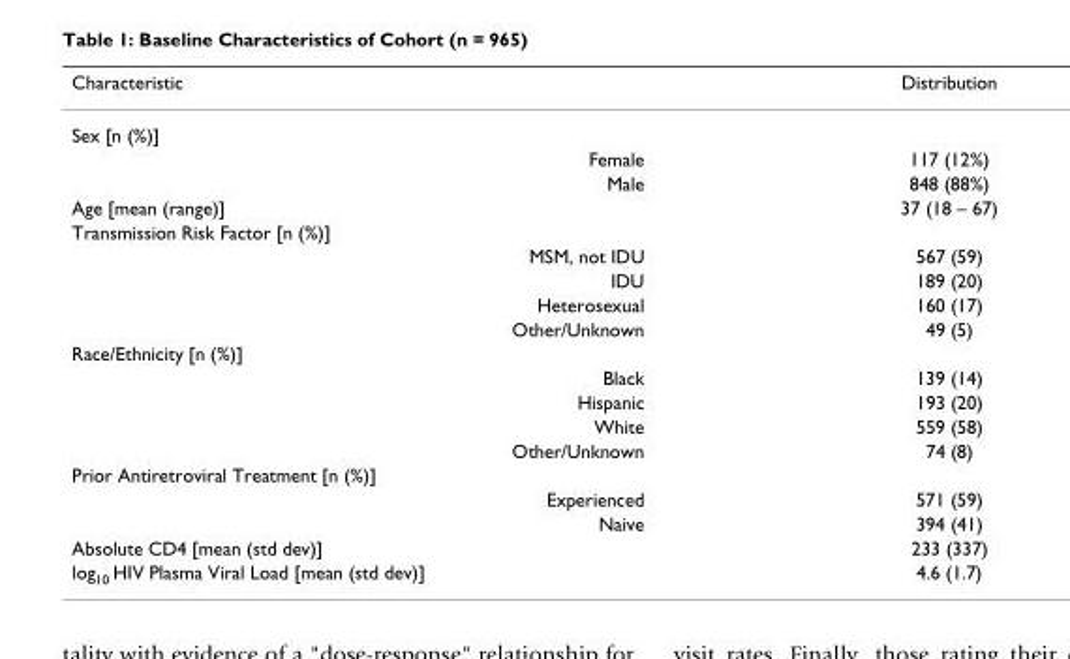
<table><thead><tr><td>Characteristic</td><td>Distribution</td></tr></thead><tbody><tr><td colspan="2">Sex [n (%)]</td></tr><tr><td>Female</td><td>117 (12%)</td></tr><tr><td>Male</td><td>848 (88%)</td></tr><tr><td>Age [mean (range)]</td><td>37 (18 – 67)</td></tr><tr><td colspan="2">Transmission Risk Factor [n (%)]</td></tr><tr><td>MSM, not IDU</td><td>567 (59)</td></tr><tr><td>IDU</td><td>189 (20)</td></tr><tr><td>Heterosexual</td><td>160 (17)</td></tr><tr><td>Other/Unknown</td><td>49 (5)</td></tr><tr><td colspan="2">Race/Ethnicity [n (%)]</td></tr><tr><td>Black</td><td>139 (14)</td></tr><tr><td>Hispanic</td><td>193 (20)</td></tr><tr><td>White</td><td>559 (58)</td></tr><tr><td>Other/Unknown</td><td>74 (8)</td></tr><tr><td colspan="2">Prior Antiretroviral Treatment [n (%)]</td></tr><tr><td>Experienced</td><td>571 (59)</td></tr><tr><td>Naive</td><td>394 (41)</td></tr><tr><td>Absolute CD4 [mean (std dev)]</td><td>233 (337)</td></tr><tr><td>log<sub>10</sub> HIV Plasma Viral Load [mean (std dev)]</td><td>4.6 (1.7)</td></tr></tbody></table>